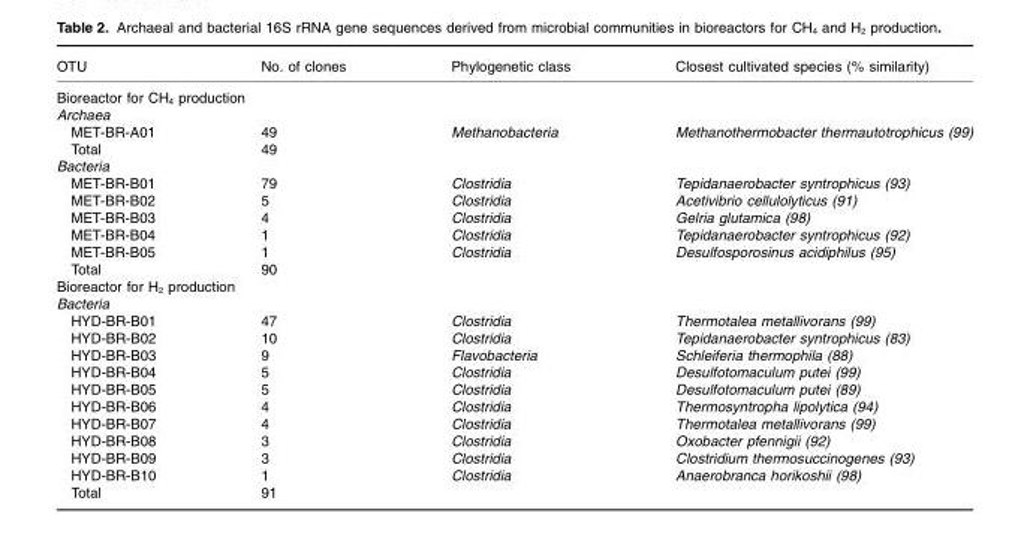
<table><thead><tr><td>OTU</td><td>No. of clones</td><td>Phylogenetic class</td><td>Closest cultivated species (% similarity)</td></tr></thead><tbody><tr><td colspan="4">Bioreactor for CH<sub>4</sub> production</td></tr><tr><td colspan="4">Archaea</td></tr><tr><td>MET-BR-A01</td><td>49</td><td>Methanobacteria</td><td>Methanothermobacter thermautotrophicus (99)</td></tr><tr><td>Total</td><td>49</td><td></td><td></td></tr><tr><td colspan="4">Bacteria</td></tr><tr><td>MET-BR-B01</td><td>79</td><td>Clostridia</td><td>Tepidanaerobacter syntrophicus (93)</td></tr><tr><td>MET-BR-B02</td><td>5</td><td>Clostridia</td><td>Acetivibrio cellulolyticus (91)</td></tr><tr><td>MET-BR-B03</td><td>4</td><td>Clostridia</td><td>Gelria glutamica (98)</td></tr><tr><td>MET-BR-B04</td><td>1</td><td>Clostridia</td><td>Tepidanaerobacter syntrophicus (92)</td></tr><tr><td>MET-BR-B05</td><td>1</td><td>Clostridia</td><td>Desulfosporosinus acidiphilus (95)</td></tr><tr><td>Total</td><td>90</td><td></td><td></td></tr><tr><td colspan="4">Bioreactor for H<sub>2</sub> production</td></tr><tr><td colspan="4">Bacteria</td></tr><tr><td>HYD-BR-B01</td><td>47</td><td>Clostridia</td><td>Thermotalea metallivorans (99)</td></tr><tr><td>HYD-BR-B02</td><td>10</td><td>Clostridia</td><td>Tepidanaerobacter syntrophicus (83)</td></tr><tr><td>HYD-BR-B03</td><td>9</td><td>Flavobacteria</td><td>Schleiferia thermophila (88)</td></tr><tr><td>HYD-BR-B04</td><td>5</td><td>Clostridia</td><td>Desulfotomaculum putei (99)</td></tr><tr><td>HYD-BR-B05</td><td>5</td><td>Clostridia</td><td>Desulfotomaculum putei (89)</td></tr><tr><td>HYD-BR-B06</td><td>4</td><td>Clostridia</td><td>Thermosyntropha lipolytica (94)</td></tr><tr><td>HYD-BR-B07</td><td>4</td><td>Clostridia</td><td>Thermotalea metallivorans (99)</td></tr><tr><td>HYD-BR-B08</td><td>3</td><td>Clostridia</td><td>Oxobacter pfennigii (92)</td></tr><tr><td>HYD-BR-B09</td><td>3</td><td>Clostridia</td><td>Clostridium thermosuccinogenes (93)</td></tr><tr><td>HYD-BR-B10</td><td>1</td><td>Clostridia</td><td>Anaerobranca horikoshii (98)</td></tr><tr><td>Total</td><td>91</td><td></td><td></td></tr></tbody></table>